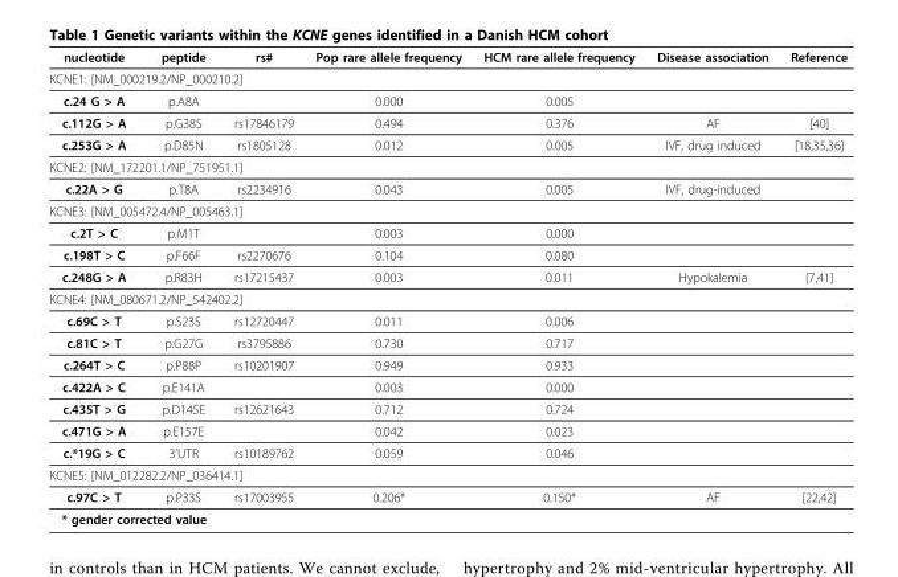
<table><thead><tr><td>nucleotide</td><td>peptide</td><td>rs#</td><td>Pop rare allele frequency</td><td>HCM rare allele frequency</td><td>Disease association</td><td>Reference</td></tr></thead><tbody><tr><td colspan="7">KCNE1: [NM_000219.2/NP_000210.2]</td></tr><tr><td>c.24 G &gt; A</td><td>p.A8A</td><td></td><td>0.000</td><td>0.005</td><td></td><td></td></tr><tr><td>c.112G &gt; A</td><td>p.G38S</td><td>rs17846179</td><td>0.494</td><td>0.376</td><td>AF</td><td>[40]</td></tr><tr><td>c.253G &gt; A</td><td>p.D85N</td><td>rs1805128</td><td>0.012</td><td>0.005</td><td>IVF, drug induced</td><td>[18,35,36]</td></tr><tr><td colspan="7">KCNE2: [NM_172201.1/NP_751951.1]</td></tr><tr><td>c.22A &gt; G</td><td>p.T8A</td><td>rs2234916</td><td>0.043</td><td>0.005</td><td>IVF, drug-induced</td><td></td></tr><tr><td colspan="7">KCNE3: [NM_005472.4/NP_005463.1]</td></tr><tr><td>c.2T &gt; C</td><td>p.M1T</td><td></td><td>0.003</td><td>0.000</td><td></td><td></td></tr><tr><td>c.198T &gt; C</td><td>p.F66F</td><td>rs2270676</td><td>0.104</td><td>0.080</td><td></td><td></td></tr><tr><td>c.248G &gt; A</td><td>p.R83H</td><td>rs17215437</td><td>0.003</td><td>0.011</td><td>Hypokalemia</td><td>[7,41]</td></tr><tr><td colspan="7">KCNE4: [NM_080671.2/NP_542402.2]</td></tr><tr><td>c.69C &gt; T</td><td>p.S23S</td><td>rs12720447</td><td>0.011</td><td>0.006</td><td></td><td></td></tr><tr><td>c.81C &gt; T</td><td>p.G27G</td><td>rs3795886</td><td>0.730</td><td>0.717</td><td></td><td></td></tr><tr><td>c.264T &gt; C</td><td>p.P88P</td><td>rs10201907</td><td>0.949</td><td>0.933</td><td></td><td></td></tr><tr><td>c.422A &gt; C</td><td>p.E141A</td><td></td><td>0.003</td><td>0.000</td><td></td><td></td></tr><tr><td>c.435T &gt; G</td><td>p.D145E</td><td>rs12621643</td><td>0.712</td><td>0.724</td><td></td><td></td></tr><tr><td>c.471G &gt; A</td><td>p.E157E</td><td></td><td>0.042</td><td>0.023</td><td></td><td></td></tr><tr><td>c.*19G &gt; C</td><td>3’UTR</td><td>rs10189762</td><td>0.059</td><td>0.046</td><td></td><td></td></tr><tr><td colspan="7">KCNE5: [NM_012282.2/NP_036414.1]</td></tr><tr><td>c.97C &gt; T</td><td>p.P33S</td><td>rs17003955</td><td>0.206*</td><td>0.150*</td><td>AF</td><td>[22,42]</td></tr><tr><td colspan="2">* gender corrected value</td><td></td><td></td><td></td><td></td><td></td></tr></tbody></table>